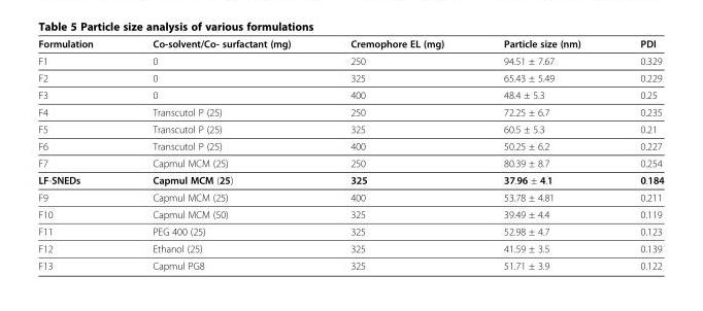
<table><thead><tr><td>Formulation</td><td>Co-solvent/Co- surfactant (mg)</td><td>Cremophore EL (mg)</td><td>Particle size (nm)</td><td>PDI</td></tr></thead><tbody><tr><td>F1</td><td>0</td><td>250</td><td>94.51 ± 7.67</td><td>0.329</td></tr><tr><td>F2</td><td>0</td><td>325</td><td>65.43 ± 5.49</td><td>0.229</td></tr><tr><td>F3</td><td>0</td><td>400</td><td>48.4 ± 5.3</td><td>0.25</td></tr><tr><td>F4</td><td>Transcutol P (25)</td><td>250</td><td>72.25 ± 6.7</td><td>0.235</td></tr><tr><td>F5</td><td>Transcutol P (25)</td><td>325</td><td>60.5 ± 5.3</td><td>0.21</td></tr><tr><td>F6</td><td>Transcutol P (25)</td><td>400</td><td>50.25 ± 6.2</td><td>0.227</td></tr><tr><td>F7</td><td>Capmul MCM (25)</td><td>250</td><td>80.39 ± 8.7</td><td>0.254</td></tr><tr><td>LF-SNEDs</td><td>Capmul MCM (25)</td><td>325</td><td>37.96 ± 4.1</td><td>0.184</td></tr><tr><td>F9</td><td>Capmul MCM (25)</td><td>400</td><td>53.78 ± 4.81</td><td>0.211</td></tr><tr><td>F10</td><td>Capmul MCM (50)</td><td>325</td><td>39.49 ± 4.4</td><td>0.119</td></tr><tr><td>F11</td><td>PEG 400 (25)</td><td>325</td><td>52.98 ± 4.7</td><td>0.123</td></tr><tr><td>F12</td><td>Ethanol (25)</td><td>325</td><td>41.59 ± 3.5</td><td>0.139</td></tr><tr><td>F13</td><td>Capmul PG8</td><td>325</td><td>51.71 ± 3.9</td><td>0.122</td></tr></tbody></table>